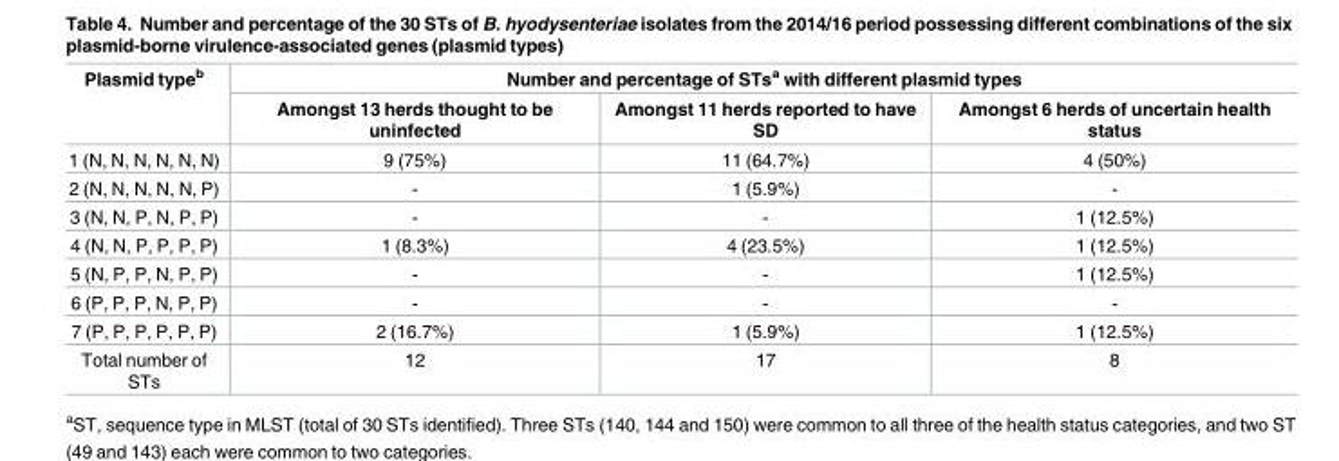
<table><thead><tr><td rowspan="2">Plasmid type<sup>b</sup></td><td colspan="3">Number and percentage of STs<sup>a</sup> with different plasmid types</td></tr><tr><td>Amongst 13 herds thought to be uninfected</td><td>Amongst 11 herds reported to have SD</td><td>Amongst 6 herds of uncertain health status</td></tr></thead><tbody><tr><td>1 (N, N, N, N, N, N)</td><td>9 (75%)</td><td>11 (64.7%)</td><td>4 (50%)</td></tr><tr><td>2 (N, N, N, N, N, P)</td><td>-</td><td>1 (5.9%)</td><td>-</td></tr><tr><td>3 (N, N, P, N, P, P)</td><td>-</td><td>-</td><td>1 (12.5%)</td></tr><tr><td>4 (N, N, P, P, P, P)</td><td>1 (8.3%)</td><td>4 (23.5%)</td><td>1 (12.5%)</td></tr><tr><td>5 (N, P, P, N, P, P)</td><td>-</td><td>-</td><td>1 (12.5%)</td></tr><tr><td>6 (P, P, P, N, P, P)</td><td>-</td><td>-</td><td>-</td></tr><tr><td>7 (P, P, P, P, P, P)</td><td>2 (16.7%)</td><td>1 (5.9%)</td><td>1 (12.5%)</td></tr><tr><td>Total number of STs</td><td>12</td><td>17</td><td>8</td></tr></tbody></table>